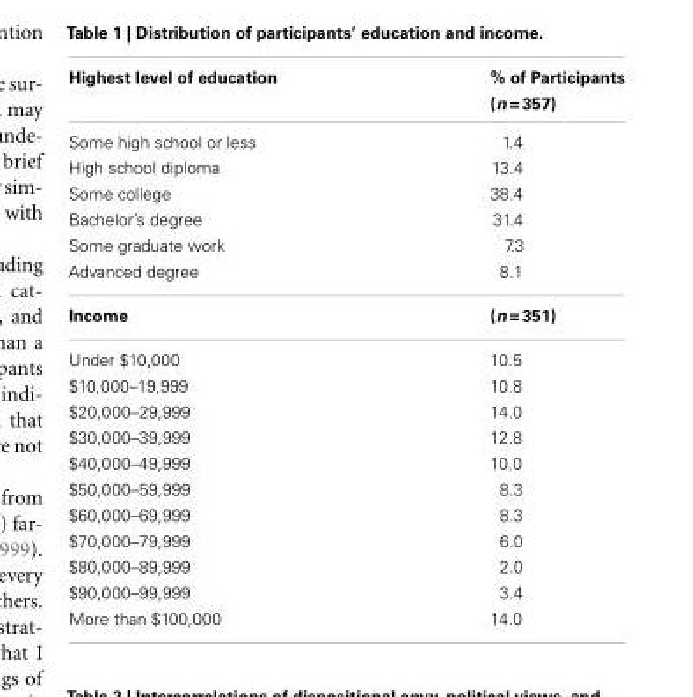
<table><thead><tr><td>Highest level of education</td><td>% of Participants (n = 357)</td></tr></thead><tbody><tr><td>Some high school or less</td><td>1.4</td></tr><tr><td>High school diploma</td><td>13.4</td></tr><tr><td>Some college</td><td>38.4</td></tr><tr><td>Bachelor’s degree</td><td>31.4</td></tr><tr><td>Some graduate work</td><td>7.3</td></tr><tr><td>Advanced degree</td><td>8.1</td></tr><tr><td>Income</td><td>(n = 351)</td></tr><tr><td>Under $10,000</td><td>10.5</td></tr><tr><td>$10,000–19,999</td><td>10.8</td></tr><tr><td>$20,000–29,999</td><td>14.0</td></tr><tr><td>$30,000–39,999</td><td>12.8</td></tr><tr><td>$40,000–49,999</td><td>10.0</td></tr><tr><td>$50,000–59,999</td><td>8.3</td></tr><tr><td>$60,000–69,999</td><td>8.3</td></tr><tr><td>$70,000–79,999</td><td>6.0</td></tr><tr><td>$80,000–89,999</td><td>2.0</td></tr><tr><td>$90,000–99,999</td><td>3.4</td></tr><tr><td>More than $100,000</td><td>14.0</td></tr></tbody></table>